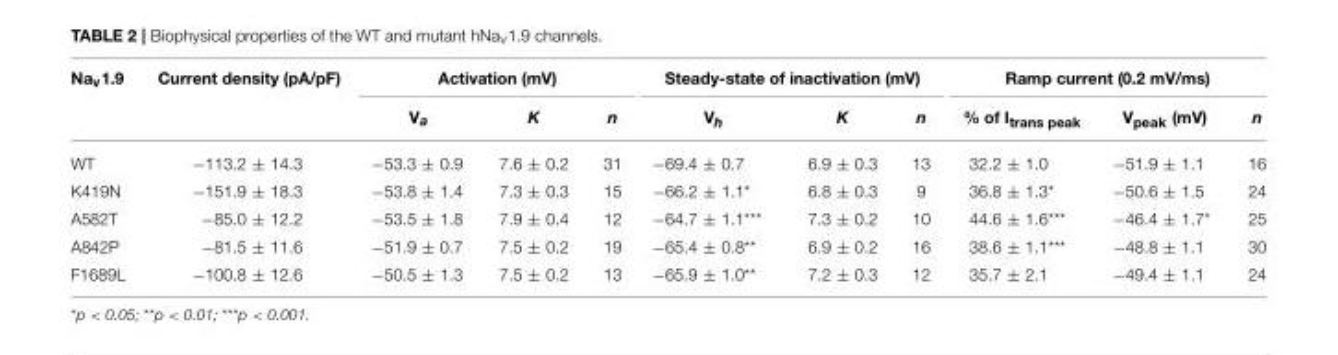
<table><thead><tr><td rowspan="2">Na<sub>v</sub>1.9</td><td rowspan="2">Current density (pA/pF)</td><td colspan="3">Activation (mV)</td><td colspan="3">Steady-state of inactivation (mV)</td><td colspan="3">Ramp current (0.2 mV/ms)</td></tr><tr><td>V<sub>a</sub></td><td>K</td><td>n</td><td>V<sub>h</sub></td><td>K</td><td>n</td><td>% of I<sub>trans peak</sub></td><td>V<sub>peak</sub> (mV)</td><td>n</td></tr></thead><tbody><tr><td>WT</td><td>−113.2 ± 14.3</td><td>−53.3 ± 0.9</td><td>7.6 ± 0.2</td><td>31</td><td>−69.4 ± 0.7</td><td>6.9 ± 0.3</td><td>13</td><td>32.2 ± 1.0</td><td>−51.9 ± 1.1</td><td>16</td></tr><tr><td>K419N</td><td>−151.9 ± 18.3</td><td>−53.8 ± 1.4</td><td>7.3 ± 0.3</td><td>15</td><td>−66.2 ± 1.1*</td><td>6.8 ± 0.3</td><td>9</td><td>36.8 ± 1.3*</td><td>−50.6 ± 1.5</td><td>24</td></tr><tr><td>A582T</td><td>−85.0 ± 12.2</td><td>−53.5 ± 1.8</td><td>7.9 ± 0.4</td><td>12</td><td>−64.7 ± 1.1***</td><td>7.3 ± 0.2</td><td>10</td><td>44.6 ± 1.6***</td><td>−46.4 ± 1.7*</td><td>25</td></tr><tr><td>A842P</td><td>−81.5 ± 11.6</td><td>−51.9 ± 0.7</td><td>7.5 ± 0.2</td><td>19</td><td>−65.4 ± 0.8**</td><td>6.9 ± 0.2</td><td>16</td><td>38.6 ± 1.1***</td><td>−48.8 ± 1.1</td><td>30</td></tr><tr><td>F1689L</td><td>−100.8 ± 12.6</td><td>−50.5 ± 1.3</td><td>7.5 ± 0.2</td><td>13</td><td>−65.9 ± 1.0**</td><td>7.2 ± 0.3</td><td>12</td><td>35.7 ± 2.1</td><td>−49.4 ± 1.1</td><td>24</td></tr></tbody></table>